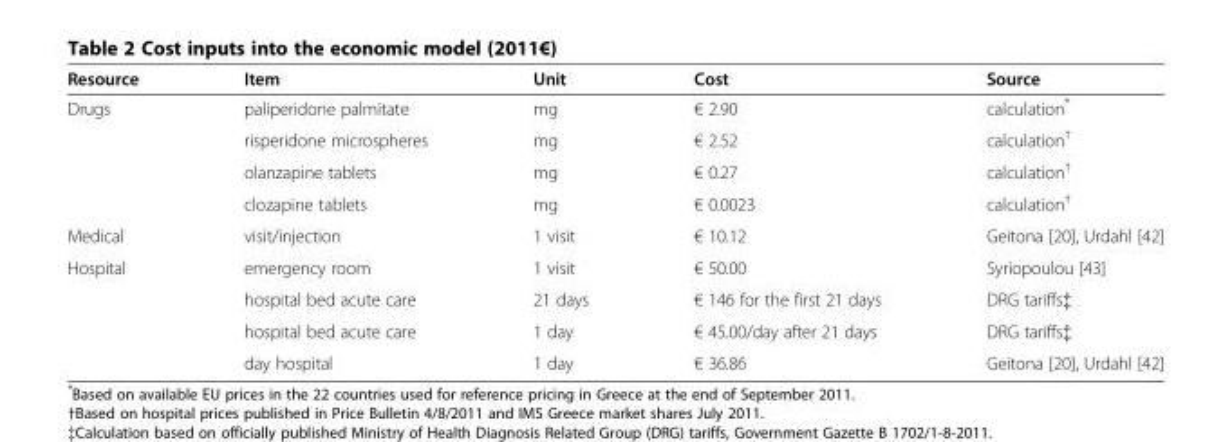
<table><thead><tr><td>Resource</td><td>Item</td><td>Unit</td><td>Cost</td><td>Source</td></tr></thead><tbody><tr><td rowspan="4">Drugs</td><td>paliperidone palmitate</td><td>mg</td><td>€ 2.90</td><td>calculation*</td></tr><tr><td>risperidone microspheres</td><td>mg</td><td>€ 2.52</td><td>calculation<sup>†</sup></td></tr><tr><td>olanzapine tablets</td><td>mg</td><td>€ 0.27</td><td>calculation<sup>†</sup></td></tr><tr><td>clozapine tablets</td><td>mg</td><td>€ 0.0023</td><td>calculation<sup>†</sup></td></tr><tr><td>Medical</td><td>visit/injection</td><td>1 visit</td><td>€ 10.12</td><td>Geitona [20], Urdahl [42]</td></tr><tr><td rowspan="4">Hospital</td><td>emergency room</td><td>1 visit</td><td>€ 50.00</td><td>Syriopoulou [43]</td></tr><tr><td>hospital bed acute care</td><td>21 days</td><td>€ 146 for the first 21 days</td><td>DRG tariffs‡</td></tr><tr><td>hospital bed acute care</td><td>1 day</td><td>€ 45.00/day after 21 days</td><td>DRG tariffs‡</td></tr><tr><td>day hospital</td><td>1 day</td><td>€ 36.86</td><td>Geitona [20], Urdahl [42]</td></tr></tbody></table>